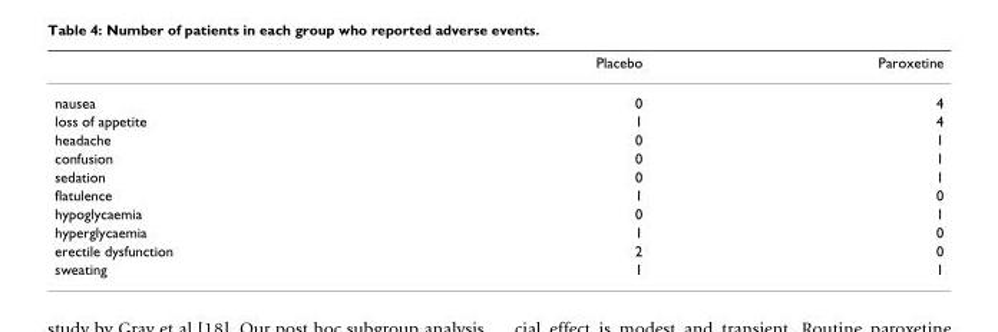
<table><thead><tr><td></td><td>Placebo</td><td>Paroxetine</td></tr></thead><tbody><tr><td>nausea</td><td>0</td><td>4</td></tr><tr><td>loss of appetite</td><td>1</td><td>4</td></tr><tr><td>headache</td><td>0</td><td>1</td></tr><tr><td>confusion</td><td>0</td><td>1</td></tr><tr><td>sedation</td><td>0</td><td>1</td></tr><tr><td>flatulence</td><td>1</td><td>0</td></tr><tr><td>hypoglycaemia</td><td>0</td><td>1</td></tr><tr><td>hyperglycaemia</td><td>1</td><td>0</td></tr><tr><td>erectile dysfunction</td><td>2</td><td>0</td></tr><tr><td>sweating</td><td>1</td><td>1</td></tr></tbody></table>